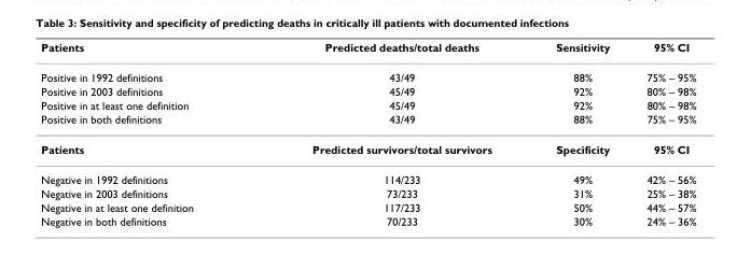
<table><thead><tr><td>Patients</td><td>Predicted deaths/total deaths</td><td>Sensitivity</td><td>95% CI</td></tr></thead><tbody><tr><td>Positive in 1992 definitions</td><td>43/49</td><td>88%</td><td>75% – 95%</td></tr><tr><td>Positive in 2003 definitions</td><td>45/49</td><td>92%</td><td>80% – 98%</td></tr><tr><td>Positive in at least one definition</td><td>45/49</td><td>92%</td><td>80% – 98%</td></tr><tr><td>Positive in both definitions</td><td>43/49</td><td>88%</td><td>75% – 95%</td></tr><tr><td>Patients</td><td>Predicted survivors/total survivors</td><td>Specificity</td><td>95% CI</td></tr><tr><td>Negative in 1992 definitions</td><td>114/233</td><td>49%</td><td>42% – 56%</td></tr><tr><td>Negative in 2003 definitions</td><td>73/233</td><td>31%</td><td>25% – 38%</td></tr><tr><td>Negative in at least one definition</td><td>117/233</td><td>50%</td><td>44% – 57%</td></tr><tr><td>Negative in both definitions</td><td>70/233</td><td>30%</td><td>24% – 36%</td></tr></tbody></table>